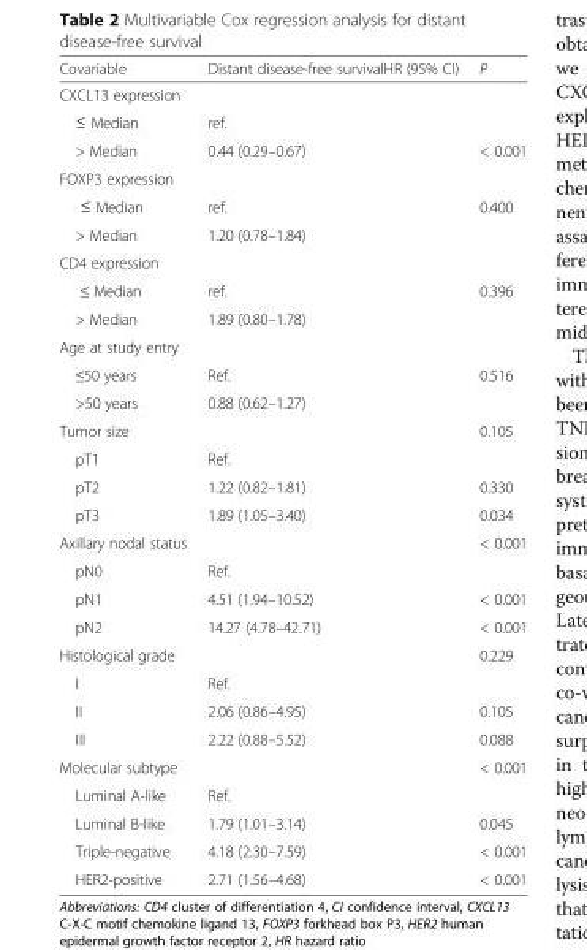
<table><thead><tr><td>Covariable</td><td>Distant disease-free survivalHR (95% CI)</td><td>P</td></tr></thead><tbody><tr><td colspan="3">CXCL13 expression</td></tr><tr><td>≤ Median</td><td>ref.</td><td></td></tr><tr><td>&gt; Median</td><td>0.44 (0.29–0.67)</td><td>&lt; 0.001</td></tr><tr><td colspan="3">FOXP3 expression</td></tr><tr><td>≤ Median</td><td>ref.</td><td>0.400</td></tr><tr><td>&gt; Median</td><td>1.20 (0.78–1.84)</td><td></td></tr><tr><td colspan="3">CD4 expression</td></tr><tr><td>≤ Median</td><td>ref.</td><td>0.396</td></tr><tr><td>&gt; Median</td><td>1.89 (0.80–1.78)</td><td></td></tr><tr><td colspan="3">Age at study entry</td></tr><tr><td>≤50 years</td><td>Ref.</td><td>0.516</td></tr><tr><td>&gt;50 years</td><td>0.88 (0.62–1.27)</td><td></td></tr><tr><td>Tumor size</td><td></td><td>0.105</td></tr><tr><td>pT1</td><td>Ref.</td><td></td></tr><tr><td>pT2</td><td>1.22 (0.82–1.81)</td><td>0.330</td></tr><tr><td>pT3</td><td>1.89 (1.05–3.40)</td><td>0.034</td></tr><tr><td>Axillary nodal status</td><td></td><td>&lt; 0.001</td></tr><tr><td>pN0</td><td>Ref.</td><td></td></tr><tr><td>pN1</td><td>4.51 (1.94–10.52)</td><td>&lt; 0.001</td></tr><tr><td>pN2</td><td>14.27 (4.78–42.71)</td><td>&lt; 0.001</td></tr><tr><td>Histological grade</td><td></td><td>0.229</td></tr><tr><td>I</td><td>Ref.</td><td></td></tr><tr><td>II</td><td>2.06 (0.86–4.95)</td><td>0.105</td></tr><tr><td>III</td><td>2.22 (0.88–5.52)</td><td>0.088</td></tr><tr><td>Molecular subtype</td><td></td><td>&lt; 0.001</td></tr><tr><td>Luminal A-like</td><td>Ref.</td><td></td></tr><tr><td>Luminal B-like</td><td>1.79 (1.01–3.14)</td><td>0.045</td></tr><tr><td>Triple-negative</td><td>4.18 (2.30–7.59)</td><td>&lt; 0.001</td></tr><tr><td>HER2-positive</td><td>2.71 (1.56–4.68)</td><td>&lt; 0.001</td></tr></tbody></table>